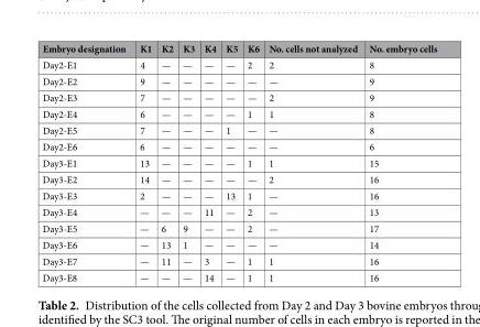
<table><thead><tr><td>Embryo designation</td><td>K1</td><td>K2</td><td>K3</td><td>K4</td><td>K5</td><td>K6</td><td>No. cells not analyzed</td><td>No. embryo cells</td></tr></thead><tbody><tr><td>Day2-E1</td><td>4</td><td>—</td><td>—</td><td>—</td><td>—</td><td>2</td><td>2</td><td>8</td></tr><tr><td>Day2-E2</td><td>9</td><td>—</td><td>—</td><td>—</td><td>—</td><td>—</td><td>—</td><td>9</td></tr><tr><td>Day2-E3</td><td>7</td><td>—</td><td>—</td><td>—</td><td>—</td><td>—</td><td>2</td><td>9</td></tr><tr><td>Day2-E4</td><td>6</td><td>—</td><td>—</td><td>—</td><td>—</td><td>1</td><td>1</td><td>8</td></tr><tr><td>Day2-E5</td><td>7</td><td>—</td><td>—</td><td>—</td><td>1</td><td>—</td><td>—</td><td>8</td></tr><tr><td>Day2-E6</td><td>6</td><td>—</td><td>—</td><td>—</td><td>—</td><td>—</td><td>—</td><td>6</td></tr><tr><td>Day3-E1</td><td>13</td><td>—</td><td>—</td><td>—</td><td>—</td><td>1</td><td>1</td><td>15</td></tr><tr><td>Day3-E2</td><td>14</td><td>—</td><td>—</td><td>—</td><td>—</td><td>—</td><td>2</td><td>16</td></tr><tr><td>Day3-E3</td><td>2</td><td>—</td><td>—</td><td>—</td><td>13</td><td>1</td><td>—</td><td>16</td></tr><tr><td>Day3-E4</td><td>—</td><td>—</td><td>—</td><td>11</td><td>—</td><td>2</td><td>—</td><td>13</td></tr><tr><td>Day3-E5</td><td>—</td><td>6</td><td>9</td><td>—</td><td>—</td><td>2</td><td>—</td><td>17</td></tr><tr><td>Day3-E6</td><td>—</td><td>13</td><td>1</td><td>—</td><td>—</td><td>—</td><td>—</td><td>14</td></tr><tr><td>Day3-E7</td><td>—</td><td>11</td><td>—</td><td>3</td><td>—</td><td>1</td><td>1</td><td>16</td></tr><tr><td>Day3-E8</td><td>—</td><td>—</td><td>—</td><td>14</td><td>—</td><td>1</td><td>1</td><td>16</td></tr></tbody></table>